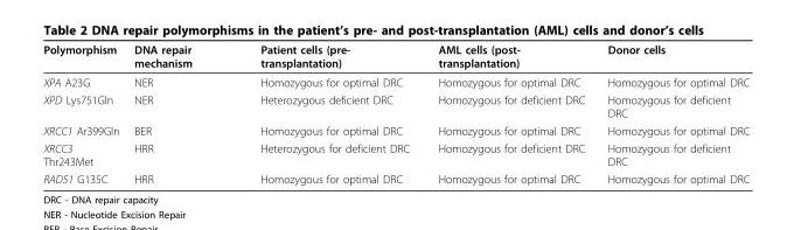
<table><thead><tr><td>Polymorphism</td><td>DNA repair mechanism</td><td>Patient cells (pre- transplantation)</td><td>AML cells (post- transplantation)</td><td>Donor cells</td></tr></thead><tbody><tr><td>XPA A23G</td><td>NER</td><td>Homozygous for optimal DRC</td><td>Homozygous for optimal DRC</td><td>Homozygous for optimal DRC</td></tr><tr><td>XPD Lys751Gln</td><td>NER</td><td>Heterozygous deficient DRC</td><td>Homozygous for deficient DRC</td><td>Homozygous for deficient DRC</td></tr><tr><td>XRCC1 Ar399Gln</td><td>BER</td><td>Homozygous for optimal DRC</td><td>Homozygous for optimal DRC</td><td>Homozygous for optimal DRC</td></tr><tr><td>XRCC3 Thr243Met</td><td>HRR</td><td>Heterozygous for deficient DRC</td><td>Homozygous for deficient DRC</td><td>Homozygous for deficient DRC</td></tr><tr><td>RAD51 G135C</td><td>HRR</td><td>Homozygous for optimal DRC</td><td>Homozygous for optimal DRC</td><td>Homozygous for optimal DRC</td></tr></tbody></table>